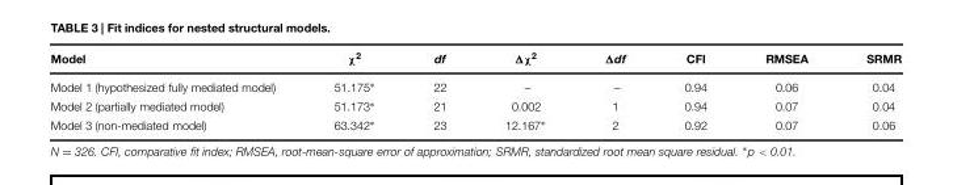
<table><thead><tr><td>Model</td><td>χ<sup>2</sup></td><td>df</td><td>Δχ<sup>2</sup></td><td>Δdf</td><td>CFI</td><td>RMSEA</td><td>SRMR</td></tr></thead><tbody><tr><td>Model 1 (hypothesized fully mediated model)</td><td>51.175∗</td><td>22</td><td>–</td><td>–</td><td>0.94</td><td>0.06</td><td>0.04</td></tr><tr><td>Model 2 (partially mediated model)</td><td>51.173∗</td><td>21</td><td>0.002</td><td>1</td><td>0.94</td><td>0.07</td><td>0.04</td></tr><tr><td>Model 3 (non-mediated model)</td><td>63.342∗</td><td>23</td><td>12.167∗</td><td>2</td><td>0.92</td><td>0.07</td><td>0.06</td></tr></tbody></table>